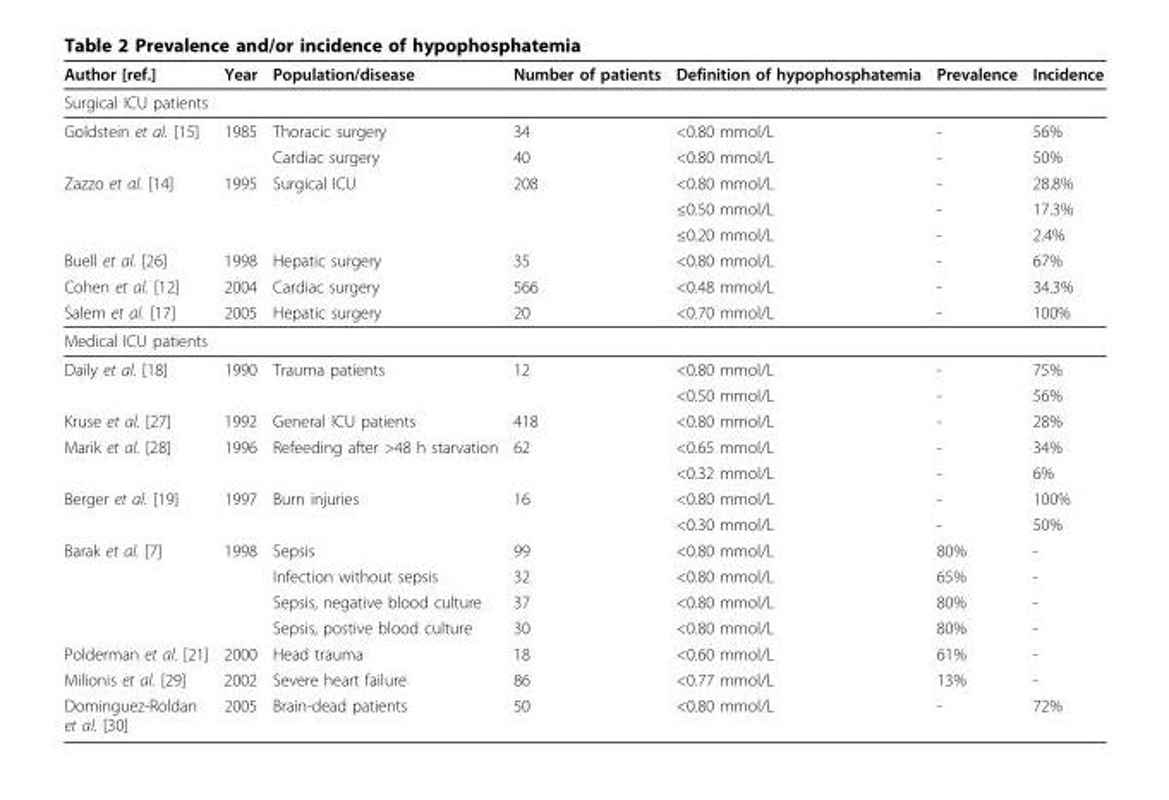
<table><thead><tr><td>Author [ref.]</td><td>Year</td><td>Population/disease</td><td>Number of patients</td><td>Definition of hypophosphatemia</td><td>Prevalence</td><td>Incidence</td></tr></thead><tbody><tr><td colspan="7">Surgical ICU patients</td></tr><tr><td rowspan="2">Goldstein et al. [15]</td><td>1985</td><td>Thoracic surgery</td><td>34</td><td>&lt;0.80 mmol/L</td><td>-</td><td>56%</td></tr><tr><td></td><td>Cardiac surgery</td><td>40</td><td>&lt;0.80 mmol/L</td><td>-</td><td>50%</td></tr><tr><td rowspan="3">Zazzo et al. [14]</td><td>1995</td><td>Surgical ICU</td><td>208</td><td>&lt;0.80 mmol/L</td><td>-</td><td>28.8%</td></tr><tr><td></td><td></td><td></td><td>≤0.50 mmol/L</td><td>-</td><td>17.3%</td></tr><tr><td></td><td></td><td></td><td>≤0.20 mmol/L</td><td>-</td><td>2.4%</td></tr><tr><td>Buell et al. [26]</td><td>1998</td><td>Hepatic surgery</td><td>35</td><td>&lt;0.80 mmol/L</td><td>-</td><td>67%</td></tr><tr><td>Cohen et al. [12]</td><td>2004</td><td>Cardiac surgery</td><td>566</td><td>&lt;0.48 mmol/L</td><td>-</td><td>34.3%</td></tr><tr><td>Salem et al. [17]</td><td>2005</td><td>Hepatic surgery</td><td>20</td><td>&lt;0.70 mmol/L</td><td>-</td><td>100%</td></tr><tr><td colspan="7">Medical ICU patients</td></tr><tr><td rowspan="2">Daily et al. [18]</td><td>1990</td><td>Trauma patients</td><td>12</td><td>&lt;0.80 mmol/L</td><td>-</td><td>75%</td></tr><tr><td></td><td></td><td></td><td>&lt;0.50 mmol/L</td><td>-</td><td>56%</td></tr><tr><td>Kruse et al. [27]</td><td>1992</td><td>General ICU patients</td><td>418</td><td>&lt;0.80 mmol/L</td><td>-</td><td>28%</td></tr><tr><td rowspan="2">Marik et al. [28]</td><td>1996</td><td>Refeeding after &gt;48 h starvation</td><td>62</td><td>&lt;0.65 mmol/L</td><td>-</td><td>34%</td></tr><tr><td></td><td></td><td></td><td>&lt;0.32 mmol/L</td><td>-</td><td>6%</td></tr><tr><td rowspan="2">Berger et al. [19]</td><td>1997</td><td>Burn injuries</td><td>16</td><td>&lt;0.80 mmol/L</td><td>-</td><td>100%</td></tr><tr><td></td><td></td><td></td><td>&lt;0.30 mmol/L</td><td>-</td><td>50%</td></tr><tr><td rowspan="4">Barak et al. [7]</td><td>1998</td><td>Sepsis</td><td>99</td><td>&lt;0.80 mmol/L</td><td>80%</td><td>-</td></tr><tr><td></td><td>Infection without sepsis</td><td>32</td><td>&lt;0.80 mmol/L</td><td>65%</td><td>-</td></tr><tr><td></td><td>Sepsis, negative blood culture</td><td>37</td><td>&lt;0.80 mmol/L</td><td>80%</td><td>-</td></tr><tr><td></td><td>Sepsis, postive blood culture</td><td>30</td><td>&lt;0.80 mmol/L</td><td>80%</td><td>-</td></tr><tr><td>Polderman et al. [21]</td><td>2000</td><td>Head trauma</td><td>18</td><td>&lt;0.60 mmol/L</td><td>61%</td><td>-</td></tr><tr><td>Milionis et al. [29]</td><td>2002</td><td>Severe heart failure</td><td>86</td><td>&lt;0.77 mmol/L</td><td>13%</td><td>-</td></tr><tr><td>Dominguez-Roldan et al. [30]</td><td>2005</td><td>Brain-dead patients</td><td>50</td><td>&lt;0.80 mmol/L</td><td>-</td><td>72%</td></tr></tbody></table>